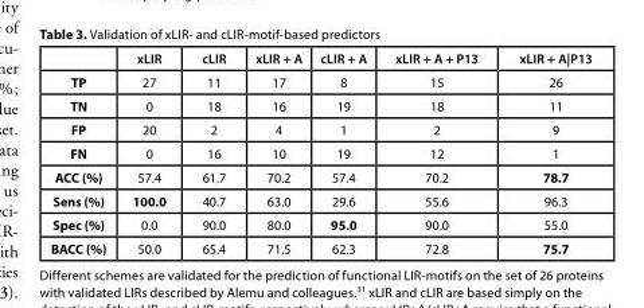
<table><thead><tr><td></td><td>xLIR</td><td>cLIR</td><td>xLIR + A</td><td>cLIR + A</td><td>xLIR + A + P13</td><td>xLIR + A|P13</td></tr></thead><tbody><tr><td>TP</td><td>27</td><td>11</td><td>17</td><td>8</td><td>15</td><td>26</td></tr><tr><td>TN</td><td>0</td><td>18</td><td>16</td><td>19</td><td>18</td><td>11</td></tr><tr><td>FP</td><td>20</td><td>2</td><td>4</td><td>1</td><td>2</td><td>9</td></tr><tr><td>FN</td><td>0</td><td>16</td><td>10</td><td>19</td><td>12</td><td>1</td></tr><tr><td>ACC (%)</td><td>57.4</td><td>61.7</td><td>70.2</td><td>57.4</td><td>70.2</td><td>78.7</td></tr><tr><td>Sens (%)</td><td>100.0</td><td>40.7</td><td>63.0</td><td>29.6</td><td>55.6</td><td>96.3</td></tr><tr><td>Spec (%)</td><td>0.0</td><td>90.0</td><td>80.0</td><td>95.0</td><td>90.0</td><td>55.0</td></tr><tr><td>BACC (%)</td><td>50.0</td><td>65.4</td><td>71.5</td><td>62.3</td><td>72.8</td><td>75.7</td></tr></tbody></table>